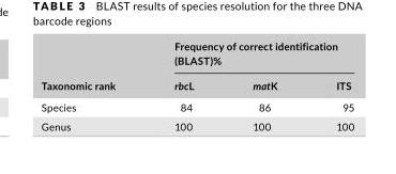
<table><thead><tr><td rowspan="2">Taxonomic rank</td><td colspan="3">Frequency of correct identification (BLAST)%</td></tr><tr><td>rbcL</td><td>matK</td><td>ITS</td></tr></thead><tbody><tr><td>Species</td><td>84</td><td>86</td><td>95</td></tr><tr><td>Genus</td><td>100</td><td>100</td><td>100</td></tr></tbody></table>